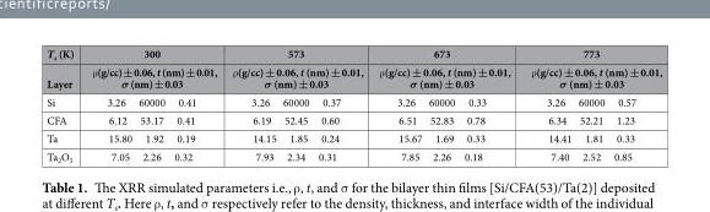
<table><thead><tr><td rowspan="2">T<sub>s</sub> (K) Layer</td><td rowspan="2">300 ρ (g/cc) ± 0.06, t (nm) ± 0.01, σ (nm) ± 0.03</td><td rowspan="2">573 ρ (g/cc) ± 0.06, t (nm) ± 0.01, σ (nm) ± 0.03</td><td rowspan="2">673 ρ (g/cc) ± 0.06, t (nm) ± 0.01, σ (nm) ± 0.03</td><td rowspan="2">773 ρ (g/cc) ± 0.06, t (nm) ± 0.01, σ (nm) ± 0.03</td></tr><tr></tr></thead><tbody><tr><td>Si</td><td>3.26 60000 0.41</td><td>3.26 60000 0.37</td><td>3.26 60000 0.33</td><td>3.26 60000 0.57</td></tr><tr><td>CFA</td><td>6.12 53.17 0.41</td><td>6.19 52.45 0.60</td><td>6.51 52.83 0.78</td><td>6.34 52.21 1.23</td></tr><tr><td>Ta</td><td>15.80 1.92 0.19</td><td>14.15 1.85 0.24</td><td>15.67 1.69 0.33</td><td>14.41 1.81 0.33</td></tr><tr><td>Ta<sub>2</sub>O<sub>5</sub></td><td>7.05 2.26 0.32</td><td>7.93 2.34 0.31</td><td>7.85 2.26 0.18</td><td>7.40 2.52 0.85</td></tr></tbody></table>